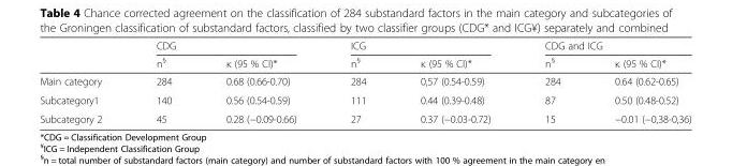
<table><thead><tr><td rowspan="2"></td><td colspan="2">CDG</td><td colspan="2">ICG</td><td colspan="2">CDG and ICG</td></tr><tr><td>n<sup>§</sup></td><td>κ (95 % CI)*</td><td>n<sup>§</sup></td><td>κ (95 % CI)*</td><td>n<sup>§</sup></td><td>κ (95 % CI)*</td></tr></thead><tbody><tr><td>Main category</td><td>284</td><td>0.68 (0.66-0.70)</td><td>284</td><td>0,57 (0.54-0.59)</td><td>284</td><td>0.64 (0.62-0.65)</td></tr><tr><td>Subcategory1</td><td>140</td><td>0.56 (0.54-0.59)</td><td>111</td><td>0.44 (0.39-0.48)</td><td>87</td><td>0.50 (0.48-0.52)</td></tr><tr><td>Subcategory 2</td><td>45</td><td>0.28 (−0.09-0.66)</td><td>27</td><td>0.37 (−0.03-0.72)</td><td>15</td><td>−0.01 (−0,38-0,36)</td></tr></tbody></table>